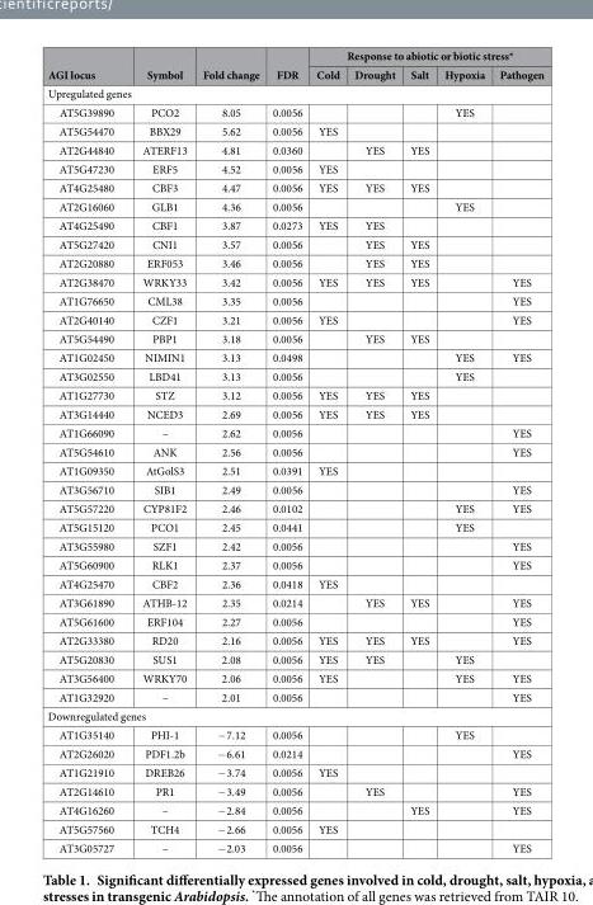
<table><thead><tr><td rowspan="2">AGI locus</td><td rowspan="2">Symbol</td><td rowspan="2">Fold change</td><td rowspan="2">FDR</td><td colspan="5">Response to abiotic or biotic stress*</td></tr><tr><td>Cold</td><td>Drought</td><td>Salt</td><td>Hypoxia</td><td>Pathogen</td></tr></thead><tbody><tr><td colspan="9">Upregulated genes</td></tr><tr><td>AT5G39890</td><td>PCO2</td><td>8.05</td><td>0.0056</td><td></td><td></td><td></td><td>YES</td><td></td></tr><tr><td>AT5G54470</td><td>BBX29</td><td>5.62</td><td>0.0056</td><td>YES</td><td></td><td></td><td></td><td></td></tr><tr><td>AT2G44840</td><td>ATERF13</td><td>4.81</td><td>0.0360</td><td></td><td>YES</td><td>YES</td><td></td><td></td></tr><tr><td>AT5G47230</td><td>ERF5</td><td>4.52</td><td>0.0056</td><td>YES</td><td></td><td></td><td></td><td></td></tr><tr><td>AT4G25480</td><td>CBF3</td><td>4.47</td><td>0.0056</td><td>YES</td><td>YES</td><td>YES</td><td></td><td></td></tr><tr><td>AT2G16060</td><td>GLB1</td><td>4.36</td><td>0.0056</td><td></td><td></td><td></td><td>YES</td><td></td></tr><tr><td>AT4G25490</td><td>CBF1</td><td>3.87</td><td>0.0273</td><td>YES</td><td>YES</td><td></td><td></td><td></td></tr><tr><td>AT5G27420</td><td>CNI1</td><td>3.57</td><td>0.0056</td><td></td><td>YES</td><td>YES</td><td></td><td></td></tr><tr><td>AT2G20880</td><td>ERF053</td><td>3.46</td><td>0.0056</td><td></td><td>YES</td><td>YES</td><td></td><td></td></tr><tr><td>AT2G38470</td><td>WRKY33</td><td>3.42</td><td>0.0056</td><td>YES</td><td>YES</td><td>YES</td><td></td><td>YES</td></tr><tr><td>AT1G76650</td><td>CML38</td><td>3.35</td><td>0.0056</td><td></td><td></td><td></td><td></td><td>YES</td></tr><tr><td>AT2G40140</td><td>CZF1</td><td>3.21</td><td>0.0056</td><td>YES</td><td></td><td></td><td></td><td>YES</td></tr><tr><td>AT5G54490</td><td>PBP1</td><td>3.18</td><td>0.0056</td><td></td><td>YES</td><td>YES</td><td></td><td></td></tr><tr><td>AT1G02450</td><td>NIMIN1</td><td>3.13</td><td>0.0498</td><td></td><td></td><td></td><td>YES</td><td>YES</td></tr><tr><td>AT3G02550</td><td>LBD41</td><td>3.13</td><td>0.0056</td><td></td><td></td><td></td><td>YES</td><td></td></tr><tr><td>AT1G27730</td><td>STZ</td><td>3.12</td><td>0.0056</td><td>YES</td><td>YES</td><td>YES</td><td></td><td></td></tr><tr><td>AT3G14440</td><td>NCED3</td><td>2.69</td><td>0.0056</td><td>YES</td><td>YES</td><td>YES</td><td></td><td></td></tr><tr><td>AT1G66090</td><td>–</td><td>2.62</td><td>0.0056</td><td></td><td></td><td></td><td></td><td>YES</td></tr><tr><td>AT5G54610</td><td>ANK</td><td>2.56</td><td>0.0056</td><td></td><td></td><td></td><td></td><td>YES</td></tr><tr><td>AT1G09350</td><td>AtGolS3</td><td>2.51</td><td>0.0391</td><td>YES</td><td></td><td></td><td></td><td></td></tr><tr><td>AT3G56710</td><td>SIB1</td><td>2.49</td><td>0.0056</td><td></td><td></td><td></td><td></td><td>YES</td></tr><tr><td>AT5G57220</td><td>CYP81F2</td><td>2.46</td><td>0.0102</td><td></td><td></td><td></td><td>YES</td><td>YES</td></tr><tr><td>AT5G15120</td><td>PCO1</td><td>2.45</td><td>0.0441</td><td></td><td></td><td></td><td>YES</td><td></td></tr><tr><td>AT3G55980</td><td>SZF1</td><td>2.42</td><td>0.0056</td><td></td><td></td><td></td><td></td><td>YES</td></tr><tr><td>AT5G60900</td><td>RLK1</td><td>2.37</td><td>0.0056</td><td></td><td></td><td></td><td></td><td>YES</td></tr><tr><td>AT4G25470</td><td>CBF2</td><td>2.36</td><td>0.0418</td><td>YES</td><td></td><td></td><td></td><td></td></tr><tr><td>AT3G61890</td><td>ATHB-12</td><td>2.35</td><td>0.0214</td><td></td><td>YES</td><td>YES</td><td></td><td>YES</td></tr><tr><td>AT5G61600</td><td>ERF104</td><td>2.27</td><td>0.0056</td><td></td><td></td><td></td><td></td><td>YES</td></tr><tr><td>AT2G33380</td><td>RD20</td><td>2.16</td><td>0.0056</td><td>YES</td><td>YES</td><td>YES</td><td></td><td>YES</td></tr><tr><td>AT5G20830</td><td>SUS1</td><td>2.08</td><td>0.0056</td><td>YES</td><td>YES</td><td></td><td>YES</td><td></td></tr><tr><td>AT3G56400</td><td>WRKY70</td><td>2.06</td><td>0.0056</td><td>YES</td><td></td><td></td><td>YES</td><td>YES</td></tr><tr><td>AT1G32920</td><td>–</td><td>2.01</td><td>0.0056</td><td></td><td></td><td></td><td></td><td>YES</td></tr><tr><td colspan="9">Downregulated genes</td></tr><tr><td>AT1G35140</td><td>PHI-1</td><td>− 7.12</td><td>0.0056</td><td></td><td></td><td></td><td>YES</td><td></td></tr><tr><td>AT2G26020</td><td>PDF1.2b</td><td>− 6.61</td><td>0.0214</td><td></td><td></td><td></td><td></td><td>YES</td></tr><tr><td>AT1G21910</td><td>DREB26</td><td>− 3.74</td><td>0.0056</td><td>YES</td><td></td><td></td><td></td><td></td></tr><tr><td>AT2G14610</td><td>PR1</td><td>− 3.49</td><td>0.0056</td><td></td><td>YES</td><td></td><td></td><td>YES</td></tr><tr><td>AT4G16260</td><td>–</td><td>− 2.84</td><td>0.0056</td><td></td><td></td><td>YES</td><td></td><td>YES</td></tr><tr><td>AT5G57560</td><td>TCH4</td><td>− 2.66</td><td>0.0056</td><td>YES</td><td></td><td></td><td></td><td></td></tr><tr><td>AT3G05727</td><td>–</td><td>− 2.03</td><td>0.0056</td><td></td><td></td><td></td><td></td><td>YES</td></tr></tbody></table>